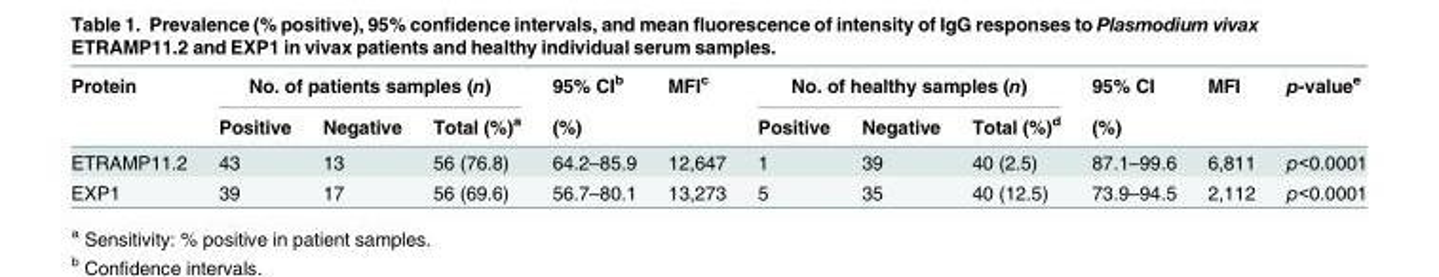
<table><thead><tr><td rowspan="2">Protein</td><td colspan="3">No. of patients samples (n)</td><td rowspan="2">95% CI<sup>b</sup> (%)</td><td rowspan="2">MFI<sup>c</sup></td><td colspan="3">No. of healthy samples (n)</td><td rowspan="2">95% CI (%)</td><td rowspan="2">MFI</td><td rowspan="2">p-value<sup>e</sup></td></tr><tr><td>Positive</td><td>Negative</td><td>Total (%)<sup>a</sup></td><td>Positive</td><td>Negative</td><td>Total (%)<sup>d</sup></td></tr></thead><tbody><tr><td>ETRAMP11.2</td><td>43</td><td>13</td><td>56 (76.8)</td><td>64.2–85.9</td><td>12,647</td><td>1</td><td>39</td><td>40 (2.5)</td><td>87.1–99.6</td><td>6,811</td><td>p&lt;0.0001</td></tr><tr><td>EXP1</td><td>39</td><td>17</td><td>56 (69.6)</td><td>56.7–80.1</td><td>13,273</td><td>5</td><td>35</td><td>40 (12.5)</td><td>73.9–94.5</td><td>2,112</td><td>p&lt;0.0001</td></tr></tbody></table>